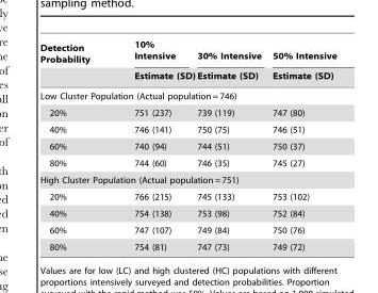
<table><thead><tr><td rowspan="2">Detection Probability</td><td rowspan="2">10% Intensive Estimate (SD)</td><td rowspan="2">30% Intensive Estimate (SD)</td><td rowspan="2">50% Intensive Estimate (SD)</td></tr><tr></tr></thead><tbody><tr><td colspan="4">Low Cluster Population (Actual population = 746)</td></tr><tr><td>20%</td><td>751 (237)</td><td>739 (119)</td><td>747 (80)</td></tr><tr><td>40%</td><td>746 (141)</td><td>750 (75)</td><td>746 (51)</td></tr><tr><td>60%</td><td>740 (94)</td><td>744 (51)</td><td>750 (37)</td></tr><tr><td>80%</td><td>744 (60)</td><td>746 (35)</td><td>745 (27)</td></tr><tr><td colspan="4">High Cluster Population (Actual population = 751)</td></tr><tr><td>20%</td><td>766 (215)</td><td>745 (133)</td><td>753 (102)</td></tr><tr><td>40%</td><td>754 (138)</td><td>753 (98)</td><td>752 (84)</td></tr><tr><td>60%</td><td>747 (107)</td><td>749 (84)</td><td>750 (76)</td></tr><tr><td>80%</td><td>754 (81)</td><td>747 (73)</td><td>749 (72)</td></tr></tbody></table>